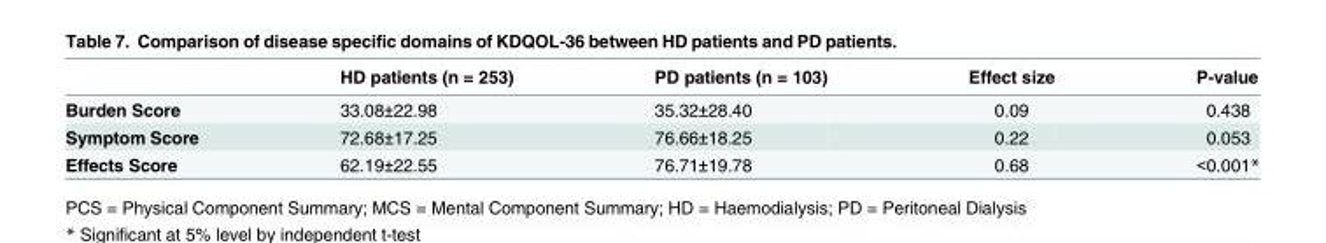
<table><thead><tr><td></td><td>HD patients (n = 253)</td><td>PD patients (n = 103)</td><td>Effect size</td><td>P-value</td></tr></thead><tbody><tr><td>Burden Score</td><td>33.08±22.98</td><td>35.32±28.40</td><td>0.09</td><td>0.438</td></tr><tr><td>Symptom Score</td><td>72.68±17.25</td><td>76.66±18.25</td><td>0.22</td><td>0.053</td></tr><tr><td>Effects Score</td><td>62.19±22.55</td><td>76.71±19.78</td><td>0.68</td><td>&lt;0.001*</td></tr></tbody></table>